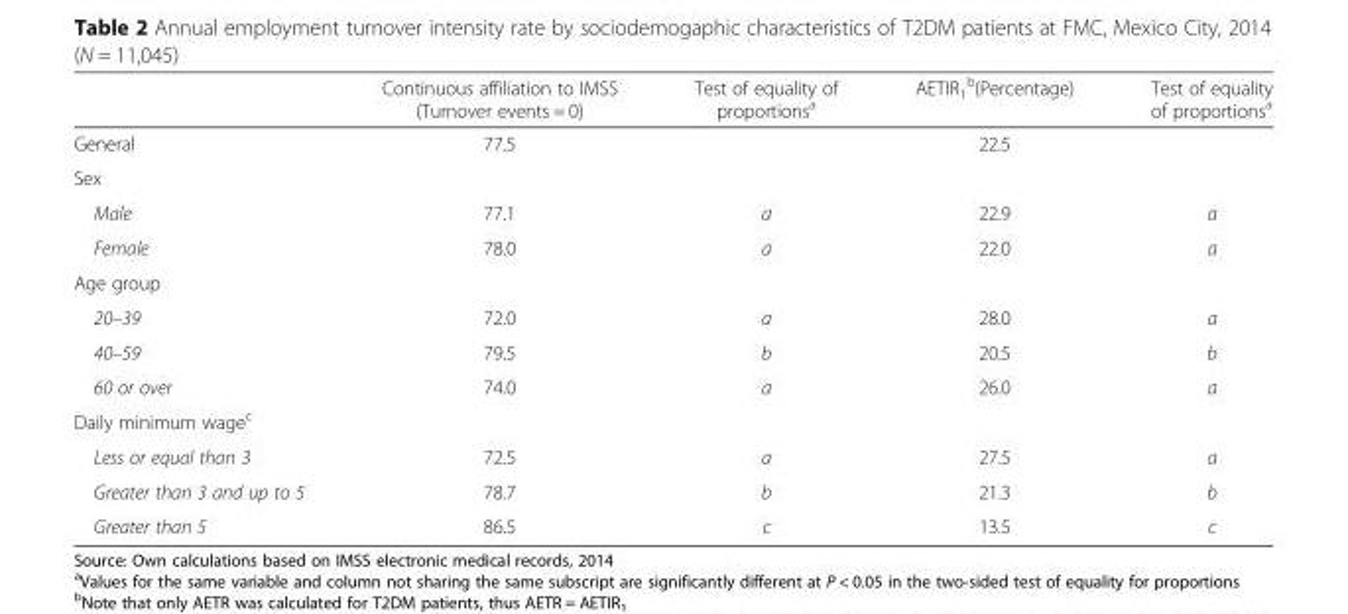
<table><thead><tr><td></td><td>Continuous affiliation to IMSS (Turnover events = 0)</td><td>Test of equality of proportions<sup>a</sup></td><td>AETIR<sub>1</sub> <sup>b</sup>(Percentage)</td><td>Test of equality of proportions<sup>a</sup></td></tr></thead><tbody><tr><td>General</td><td>77.5</td><td></td><td>22.5</td><td></td></tr><tr><td colspan="5">Sex</td></tr><tr><td>Male</td><td>77.1</td><td>a</td><td>22.9</td><td>a</td></tr><tr><td>Female</td><td>78.0</td><td>a</td><td>22.0</td><td>a</td></tr><tr><td colspan="5">Age group</td></tr><tr><td>20–39</td><td>72.0</td><td>a</td><td>28.0</td><td>a</td></tr><tr><td>40–59</td><td>79.5</td><td>b</td><td>20.5</td><td>b</td></tr><tr><td>60 or over</td><td>74.0</td><td>a</td><td>26.0</td><td>a</td></tr><tr><td colspan="5">Daily minimum wage<sup>c</sup></td></tr><tr><td>Less or equal than 3</td><td>72.5</td><td>a</td><td>27.5</td><td>a</td></tr><tr><td>Greater than 3 and up to 5</td><td>78.7</td><td>b</td><td>21.3</td><td>b</td></tr><tr><td>Greater than 5</td><td>86.5</td><td>c</td><td>13.5</td><td>c</td></tr></tbody></table>